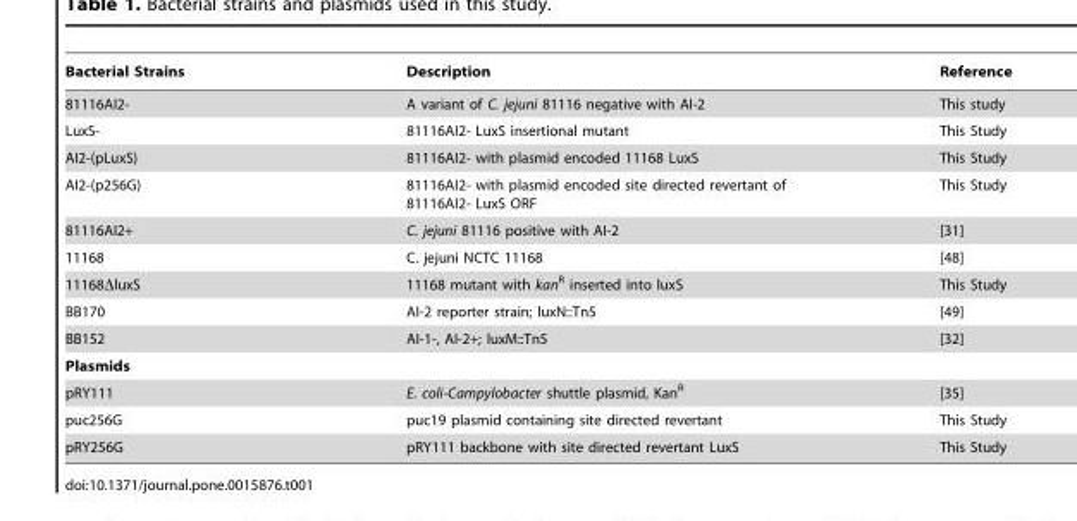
<table><thead><tr><td>Bacterial Strains</td><td>Description</td><td>Reference</td></tr></thead><tbody><tr><td>81116AI2-</td><td>A variant of C. jejuni 81116 negative with AI-2</td><td>This study</td></tr><tr><td>LuxS-</td><td>81116AI2- LuxS insertional mutant</td><td>This Study</td></tr><tr><td>AI2-(pLuxS)</td><td>81116AI2- with plasmid encoded 11168 LuxS</td><td>This Study</td></tr><tr><td>AI2-(p256G)</td><td>81116AI2- with plasmid encoded site directed revertant of 81116AI2- LuxS ORF</td><td>This Study</td></tr><tr><td>81116AI2+</td><td>C. jejuni 81116 positive with AI-2</td><td>[31]</td></tr><tr><td>11168</td><td>C. jejuni NCTC 11168</td><td>[48]</td></tr><tr><td>11168ΔluxS</td><td>11168 mutant with kan<sup>R</sup> inserted into luxS</td><td>This Study</td></tr><tr><td>BB170</td><td>AI-2 reporter strain; luxN::Tn5</td><td>[49]</td></tr><tr><td>BB152</td><td>AI-1-, AI-2+; luxM::Tn5</td><td>[32]</td></tr><tr><td colspan="3">Plasmids</td></tr><tr><td>pRY111</td><td>E. coli-Campylobacter shuttle plasmid, Kan<sup>R</sup></td><td>[35]</td></tr><tr><td>puc256G</td><td>puc19 plasmid containing site directed revertant</td><td>This Study</td></tr><tr><td>pRY256G</td><td>pRY111 backbone with site directed revertant LuxS</td><td>This Study</td></tr></tbody></table>